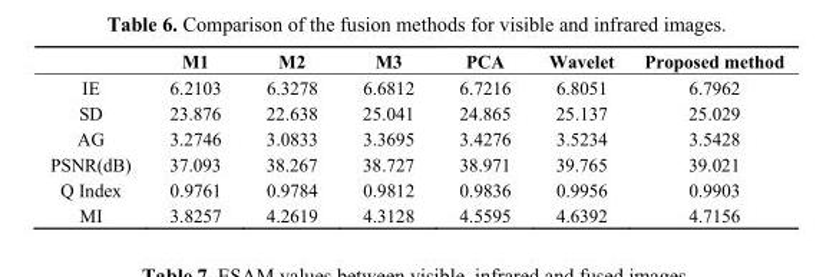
<table><thead><tr><td></td><td>M1</td><td>M2</td><td>M3</td><td>PCA</td><td>Wavelet</td><td>Proposed method</td></tr></thead><tbody><tr><td>IE</td><td>6.2103</td><td>6.3278</td><td>6.6812</td><td>6.7216</td><td>6.8051</td><td>6.7962</td></tr><tr><td>SD</td><td>23.876</td><td>22.638</td><td>25.041</td><td>24.865</td><td>25.137</td><td>25.029</td></tr><tr><td>AG</td><td>3.2746</td><td>3.0833</td><td>3.3695</td><td>3.4276</td><td>3.5234</td><td>3.5428</td></tr><tr><td>PSNR(dB)</td><td>37.093</td><td>38.267</td><td>38.727</td><td>38.971</td><td>39.765</td><td>39.021</td></tr><tr><td>Q Index</td><td>0.9761</td><td>0.9784</td><td>0.9812</td><td>0.9836</td><td>0.9956</td><td>0.9903</td></tr><tr><td>MI</td><td>3.8257</td><td>4.2619</td><td>4.3128</td><td>4.5595</td><td>4.6392</td><td>4.7156</td></tr></tbody></table>